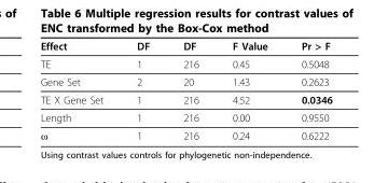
<table><thead><tr><td>Effect</td><td>DF</td><td>DF</td><td>F Value</td><td>Pr &gt; F</td></tr></thead><tbody><tr><td>TE</td><td>1</td><td>216</td><td>0.45</td><td>0.5048</td></tr><tr><td>Gene Set</td><td>2</td><td>20</td><td>1.43</td><td>0.2623</td></tr><tr><td>TE X Gene Set</td><td>1</td><td>216</td><td>4.52</td><td>0.0346</td></tr><tr><td>Length</td><td>1</td><td>216</td><td>0.00</td><td>0.9550</td></tr><tr><td>ω</td><td>1</td><td>216</td><td>0.24</td><td>0.6222</td></tr></tbody></table>